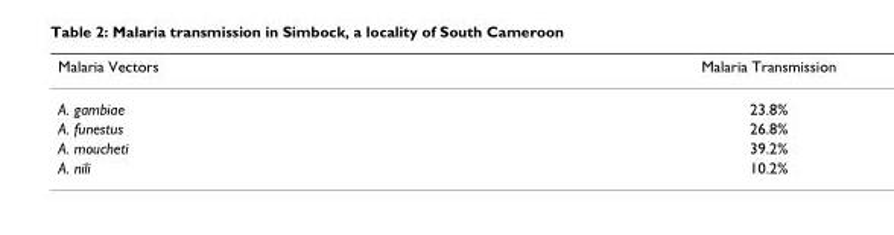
<table><thead><tr><td>Malaria Vectors</td><td>Malaria Transmission</td></tr></thead><tbody><tr><td>A. gambiae</td><td>23.8%</td></tr><tr><td>A. funestus</td><td>26.8%</td></tr><tr><td>A. moucheti</td><td>39.2%</td></tr><tr><td>A. nili</td><td>10.2%</td></tr></tbody></table>